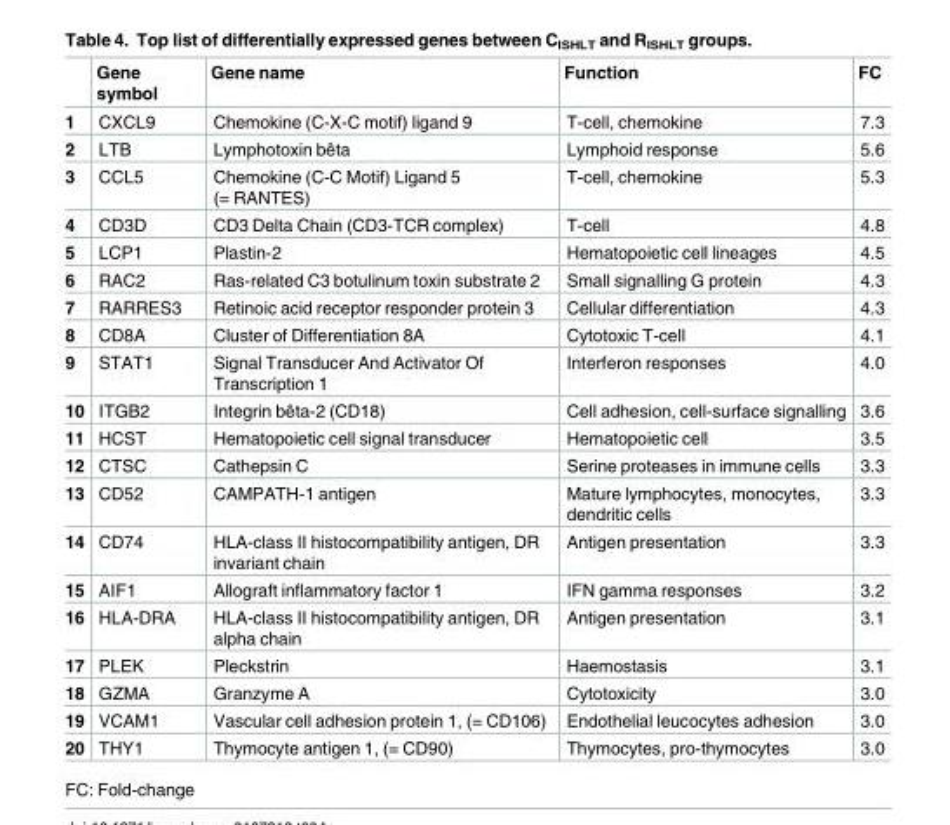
<table><thead><tr><td></td><td>Gene symbol</td><td>Gene name</td><td>Function</td><td>FC</td></tr></thead><tbody><tr><td>1</td><td>CXCL9</td><td>Chemokine (C-X-C motif) ligand 9</td><td>T-cell, chemokine</td><td>7.3</td></tr><tr><td>2</td><td>LTB</td><td>Lymphotoxin bêta</td><td>Lymphoid response</td><td>5.6</td></tr><tr><td>3</td><td>CCL5</td><td>Chemokine (C-C Motif) Ligand 5 (= RANTES)</td><td>T-cell, chemokine</td><td>5.3</td></tr><tr><td>4</td><td>CD3D</td><td>CD3 Delta Chain (CD3-TCR complex)</td><td>T-cell</td><td>4.8</td></tr><tr><td>5</td><td>LCP1</td><td>Plastin-2</td><td>Hematopoietic cell lineages</td><td>4.5</td></tr><tr><td>6</td><td>RAC2</td><td>Ras-related C3 botulinum toxin substrate 2</td><td>Small signalling G protein</td><td>4.3</td></tr><tr><td>7</td><td>RARRES3</td><td>Retinoic acid receptor responder protein 3</td><td>Cellular differentiation</td><td>4.3</td></tr><tr><td>8</td><td>CD8A</td><td>Cluster of Differentiation 8A</td><td>Cytotoxic T-cell</td><td>4.1</td></tr><tr><td>9</td><td>STAT1</td><td>Signal Transducer And Activator Of Transcription 1</td><td>Interferon responses</td><td>4.0</td></tr><tr><td>10</td><td>ITGB2</td><td>Integrin bêta-2 (CD18)</td><td>Cell adhesion, cell-surface signalling</td><td>3.6</td></tr><tr><td>11</td><td>HCST</td><td>Hematopoietic cell signal transducer</td><td>Hematopoietic cell</td><td>3.5</td></tr><tr><td>12</td><td>CTSC</td><td>Cathepsin C</td><td>Serine proteases in immune cells</td><td>3.3</td></tr><tr><td>13</td><td>CD52</td><td>CAMPATH-1 antigen</td><td>Mature lymphocytes, monocytes, dendritic cells</td><td>3.3</td></tr><tr><td>14</td><td>CD74</td><td>HLA-class II histocompatibility antigen, DR invariant chain</td><td>Antigen presentation</td><td>3.3</td></tr><tr><td>15</td><td>AIF1</td><td>Allograft inflammatory factor 1</td><td>IFN gamma responses</td><td>3.2</td></tr><tr><td>16</td><td>HLA-DRA</td><td>HLA-class II histocompatibility antigen, DR alpha chain</td><td>Antigen presentation</td><td>3.1</td></tr><tr><td>17</td><td>PLEK</td><td>Pleckstrin</td><td>Haemostasis</td><td>3.1</td></tr><tr><td>18</td><td>GZMA</td><td>Granzyme A</td><td>Cytotoxicity</td><td>3.0</td></tr><tr><td>19</td><td>VCAM1</td><td>Vascular cell adhesion protein 1, (= CD106)</td><td>Endothelial leucocytes adhesion</td><td>3.0</td></tr><tr><td>20</td><td>THY1</td><td>Thymocyte antigen 1, (= CD90)</td><td>Thymocytes, pro-thymocytes</td><td>3.0</td></tr></tbody></table>